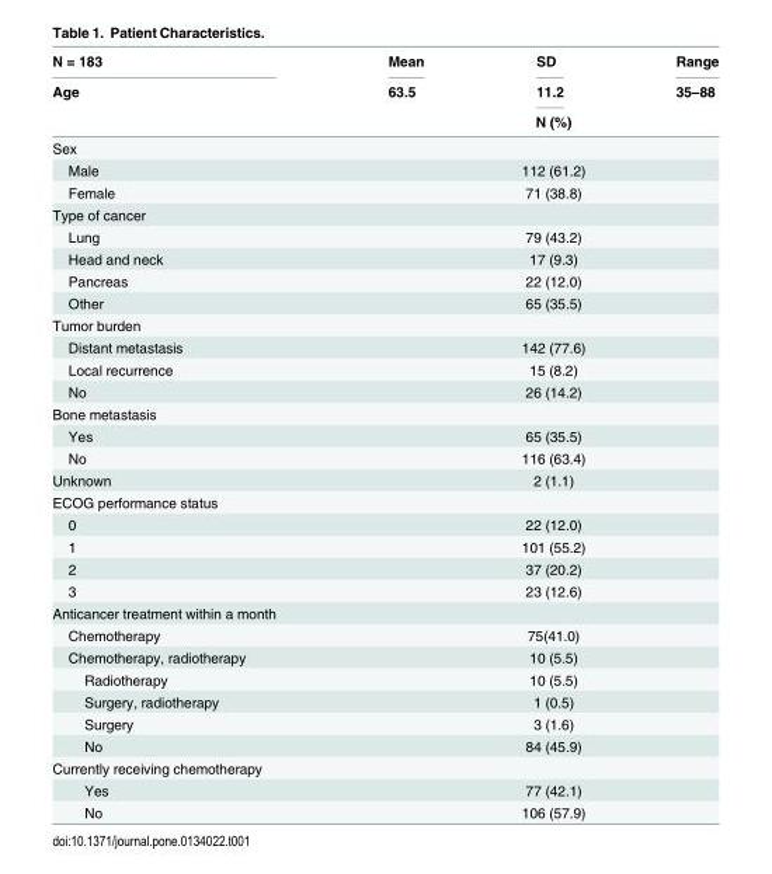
<table><thead><tr><td rowspan="3">N = 183 Age</td><td rowspan="2">Mean 63.5</td><td rowspan="2">SD 11.2</td><td rowspan="2">Range 35–88</td></tr><tr></tr><tr><td colspan="3">N (%)</td></tr></thead><tbody><tr><td colspan="4">Sex</td></tr><tr><td>Male</td><td colspan="3">112 (61.2)</td></tr><tr><td>Female</td><td colspan="3">71 (38.8)</td></tr><tr><td colspan="4">Type of cancer</td></tr><tr><td>Lung</td><td colspan="3">79 (43.2)</td></tr><tr><td>Head and neck</td><td colspan="3">17 (9.3)</td></tr><tr><td>Pancreas</td><td colspan="3">22 (12.0)</td></tr><tr><td>Other</td><td colspan="3">65 (35.5)</td></tr><tr><td colspan="4">Tumor burden</td></tr><tr><td>Distant metastasis</td><td colspan="3">142 (77.6)</td></tr><tr><td>Local recurrence</td><td colspan="3">15 (8.2)</td></tr><tr><td>No</td><td colspan="3">26 (14.2)</td></tr><tr><td colspan="4">Bone metastasis</td></tr><tr><td>Yes</td><td colspan="3">65 (35.5)</td></tr><tr><td>No</td><td colspan="3">116 (63.4)</td></tr><tr><td>Unknown</td><td colspan="3">2 (1.1)</td></tr><tr><td colspan="4">ECOG performance status</td></tr><tr><td>0</td><td colspan="3">22 (12.0)</td></tr><tr><td>1</td><td colspan="3">101 (55.2)</td></tr><tr><td>2</td><td colspan="3">37 (20.2)</td></tr><tr><td>3</td><td colspan="3">23 (12.6)</td></tr><tr><td colspan="4">Anticancer treatment within a month</td></tr><tr><td>Chemotherapy</td><td colspan="3">75(41.0)</td></tr><tr><td>Chemotherapy, radiotherapy</td><td colspan="3">10 (5.5)</td></tr><tr><td>Radiotherapy</td><td colspan="3">10 (5.5)</td></tr><tr><td>Surgery, radiotherapy</td><td colspan="3">1 (0.5)</td></tr><tr><td>Surgery</td><td colspan="3">3 (1.6)</td></tr><tr><td>No</td><td colspan="3">84 (45.9)</td></tr><tr><td colspan="4">Currently receiving chemotherapy</td></tr><tr><td>Yes</td><td colspan="3">77 (42.1)</td></tr><tr><td>No</td><td colspan="3">106 (57.9)</td></tr></tbody></table>